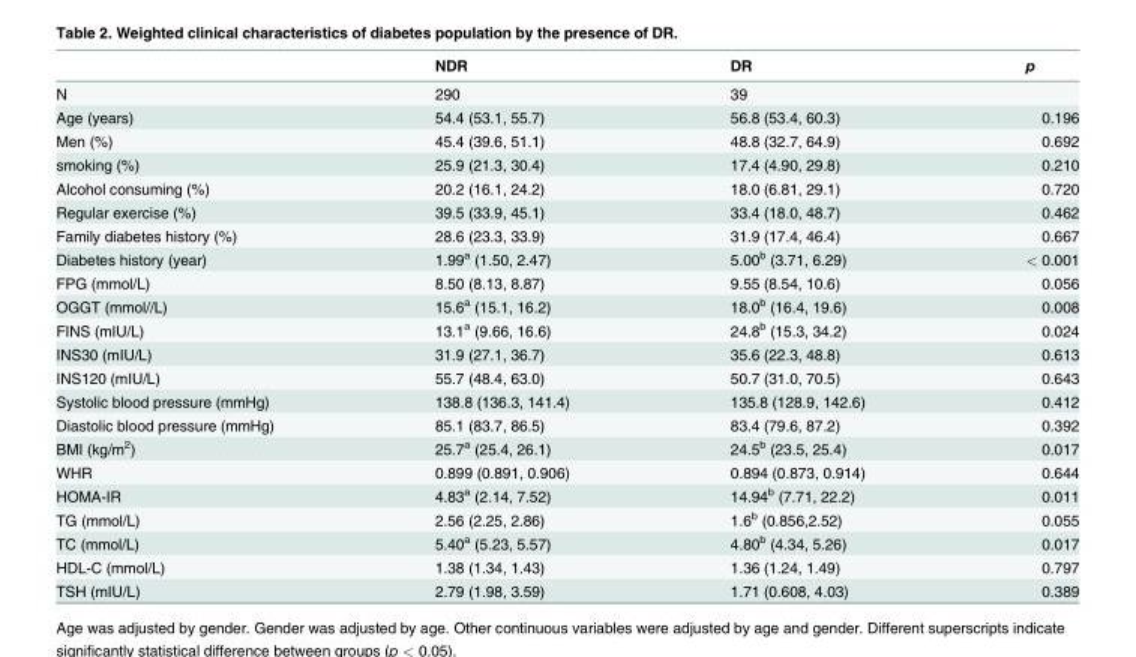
<table><thead><tr><td></td><td>NDR</td><td>DR</td><td>p</td></tr></thead><tbody><tr><td>N</td><td>290</td><td>39</td><td></td></tr><tr><td>Age (years)</td><td>54.4 (53.1, 55.7)</td><td>56.8 (53.4, 60.3)</td><td>0.196</td></tr><tr><td>Men (%)</td><td>45.4 (39.6, 51.1)</td><td>48.8 (32.7, 64.9)</td><td>0.692</td></tr><tr><td>smoking (%)</td><td>25.9 (21.3, 30.4)</td><td>17.4 (4.90, 29.8)</td><td>0.210</td></tr><tr><td>Alcohol consuming (%)</td><td>20.2 (16.1, 24.2)</td><td>18.0 (6.81, 29.1)</td><td>0.720</td></tr><tr><td>Regular exercise (%)</td><td>39.5 (33.9, 45.1)</td><td>33.4 (18.0, 48.7)</td><td>0.462</td></tr><tr><td>Family diabetes history (%)</td><td>28.6 (23.3, 33.9)</td><td>31.9 (17.4, 46.4)</td><td>0.667</td></tr><tr><td>Diabetes history (year)</td><td>1.99<sup>a</sup> (1.50, 2.47)</td><td>5.00<sup>b</sup> (3.71, 6.29)</td><td>&lt; 0.001</td></tr><tr><td>FPG (mmol/L)</td><td>8.50 (8.13, 8.87)</td><td>9.55 (8.54, 10.6)</td><td>0.056</td></tr><tr><td>OGGT (mmol//L)</td><td>15.6<sup>a</sup> (15.1, 16.2)</td><td>18.0<sup>b</sup> (16.4, 19.6)</td><td>0.008</td></tr><tr><td>FINS (mIU/L)</td><td>13.1<sup>a</sup> (9.66, 16.6)</td><td>24.8<sup>b</sup> (15.3, 34.2)</td><td>0.024</td></tr><tr><td>INS30 (mIU/L)</td><td>31.9 (27.1, 36.7)</td><td>35.6 (22.3, 48.8)</td><td>0.613</td></tr><tr><td>INS120 (mIU/L)</td><td>55.7 (48.4, 63.0)</td><td>50.7 (31.0, 70.5)</td><td>0.643</td></tr><tr><td>Systolic blood pressure (mmHg)</td><td>138.8 (136.3, 141.4)</td><td>135.8 (128.9, 142.6)</td><td>0.412</td></tr><tr><td>Diastolic blood pressure (mmHg)</td><td>85.1 (83.7, 86.5)</td><td>83.4 (79.6, 87.2)</td><td>0.392</td></tr><tr><td>BMI (kg/m<sup>2</sup>)</td><td>25.7<sup>a</sup> (25.4, 26.1)</td><td>24.5<sup>b</sup> (23.5, 25.4)</td><td>0.017</td></tr><tr><td>WHR</td><td>0.899 (0.891, 0.906)</td><td>0.894 (0.873, 0.914)</td><td>0.644</td></tr><tr><td>HOMA-IR</td><td>4.83<sup>a</sup> (2.14, 7.52)</td><td>14.94<sup>b</sup> (7.71, 22.2)</td><td>0.011</td></tr><tr><td>TG (mmol/L)</td><td>2.56 (2.25, 2.86)</td><td>1.6<sup>b</sup> (0.856,2.52)</td><td>0.055</td></tr><tr><td>TC (mmol/L)</td><td>5.40<sup>a</sup> (5.23, 5.57)</td><td>4.80<sup>b</sup> (4.34, 5.26)</td><td>0.017</td></tr><tr><td>HDL-C (mmol/L)</td><td>1.38 (1.34, 1.43)</td><td>1.36 (1.24, 1.49)</td><td>0.797</td></tr><tr><td>TSH (mIU/L)</td><td>2.79 (1.98, 3.59)</td><td>1.71 (0.608, 4.03)</td><td>0.389</td></tr></tbody></table>